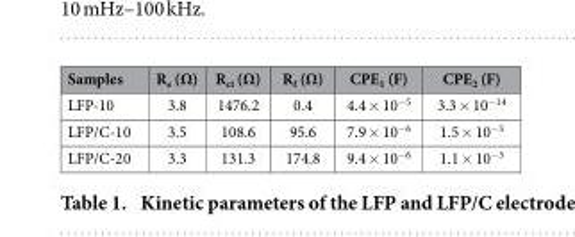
<table><thead><tr><td>Samples</td><td>R<sub>e</sub> (Ω)</td><td>R<sub>ct</sub> (Ω)</td><td>R<sub>f</sub> (Ω)</td><td>CPE<sub>1</sub> (F)</td><td>CPE<sub>2</sub> (F)</td></tr></thead><tbody><tr><td>LFP-10</td><td>3.8</td><td>1476.2</td><td>0.4</td><td>4.4 × 10<sup>−5</sup></td><td>3.3 × 10<sup>−14</sup></td></tr><tr><td>LFP/C-10</td><td>3.5</td><td>108.6</td><td>95.6</td><td>7.9 × 10<sup>−6</sup></td><td>1.5 × 10<sup>−3</sup></td></tr><tr><td>LFP/C-20</td><td>3.3</td><td>131.3</td><td>174.8</td><td>9.4 × 10<sup>−6</sup></td><td>1.1 × 10<sup>−3</sup></td></tr></tbody></table>